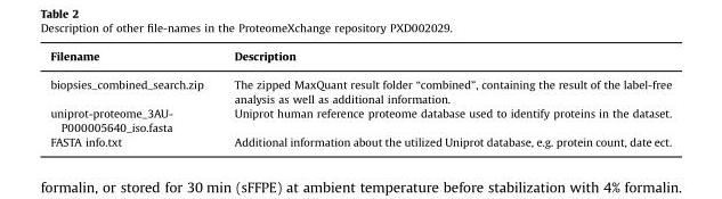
<table><thead><tr><td>Filename</td><td>Description</td></tr></thead><tbody><tr><td>biopsies_combined_search.zip</td><td>The zipped MaxQuant result folder “combined”, containing the result of the label-free analysis as well as additional information.</td></tr><tr><td>uniprot-proteome_3AU- P000005640_iso.fasta</td><td>Uniprot human reference proteome database used to identify proteins in the dataset.</td></tr><tr><td>FASTA info.txt</td><td>Additional information about the utilized Uniprot database, e.g. protein count, date ect.</td></tr></tbody></table>